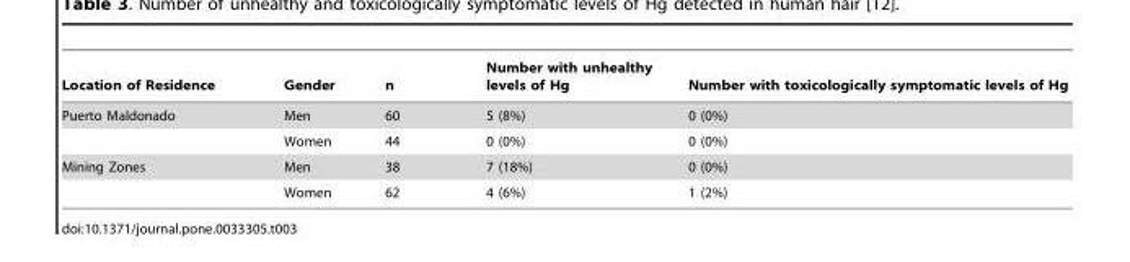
<table><thead><tr><td>Location of Residence</td><td>Gender</td><td>n</td><td>Number with unhealthy levels of Hg</td><td>Number with toxicologically symptomatic levels of Hg</td></tr></thead><tbody><tr><td rowspan="2">Puerto Maldonado</td><td>Men</td><td>60</td><td>5 (8%)</td><td>0 (0%)</td></tr><tr><td>Women</td><td>44</td><td>0 (0%)</td><td>0 (0%)</td></tr><tr><td rowspan="2">Mining Zones</td><td>Men</td><td>38</td><td>7 (18%)</td><td>0 (0%)</td></tr><tr><td>Women</td><td>62</td><td>4 (6%)</td><td>1 (2%)</td></tr></tbody></table>